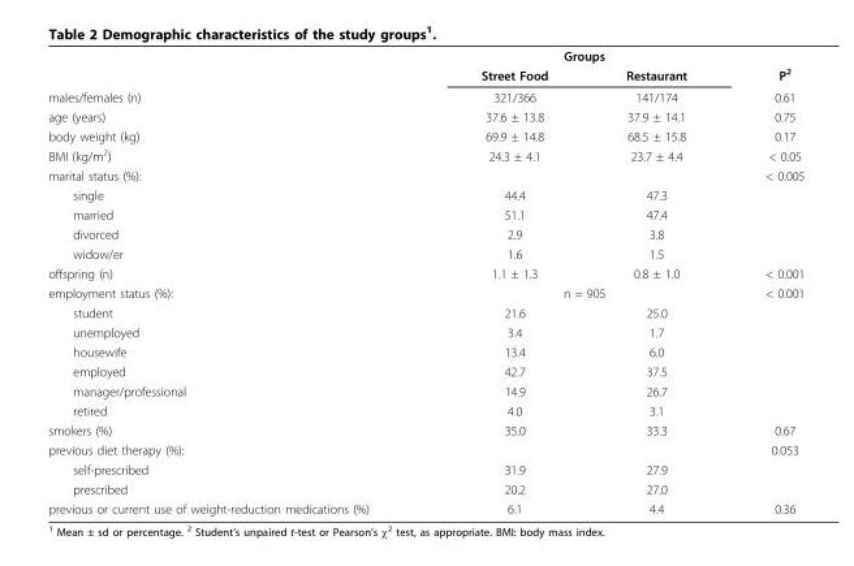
<table><thead><tr><td rowspan="2"></td><td colspan="2">Groups</td><td rowspan="2">P<sup>2</sup></td></tr><tr><td>Street Food</td><td>Restaurant</td></tr></thead><tbody><tr><td>males/females (n)</td><td>321/366</td><td>141/174</td><td>0.61</td></tr><tr><td>age (years)</td><td>37.6 ± 13.8</td><td>37.9 ± 14.1</td><td>0.75</td></tr><tr><td>body weight (kg)</td><td>69.9 ± 14.8</td><td>68.5 ± 15.8</td><td>0.17</td></tr><tr><td>BMI (kg/m<sup>2</sup>)</td><td>24.3 ± 4.1</td><td>23.7 ± 4.4</td><td>&lt; 0.05</td></tr><tr><td>marital status (%):</td><td></td><td></td><td>&lt; 0.005</td></tr><tr><td>single</td><td>44.4</td><td>47.3</td><td></td></tr><tr><td>married</td><td>51.1</td><td>47.4</td><td></td></tr><tr><td>divorced</td><td>2.9</td><td>3.8</td><td></td></tr><tr><td>widow/er</td><td>1.6</td><td>1.5</td><td></td></tr><tr><td>offspring (n)</td><td>1.1 ± 1.3</td><td>0.8 ± 1.0</td><td>&lt; 0.001</td></tr><tr><td>employment status (%):</td><td colspan="2">n = 905</td><td>&lt; 0.001</td></tr><tr><td>student</td><td>21.6</td><td>25.0</td><td></td></tr><tr><td>unemployed</td><td>3.4</td><td>1.7</td><td></td></tr><tr><td>housewife</td><td>13.4</td><td>6.0</td><td></td></tr><tr><td>employed</td><td>42.7</td><td>37.5</td><td></td></tr><tr><td>manager/professional</td><td>14.9</td><td>26.7</td><td></td></tr><tr><td>retired</td><td>4.0</td><td>3.1</td><td></td></tr><tr><td>smokers (%)</td><td>35.0</td><td>33.3</td><td>0.67</td></tr><tr><td>previous diet therapy (%):</td><td></td><td></td><td>0.053</td></tr><tr><td>self-prescribed</td><td>31.9</td><td>27.9</td><td></td></tr><tr><td>prescribed</td><td>20.2</td><td>27.0</td><td></td></tr><tr><td>previous or current use of weight-reduction medications (%)</td><td>6.1</td><td>4.4</td><td>0.36</td></tr></tbody></table>